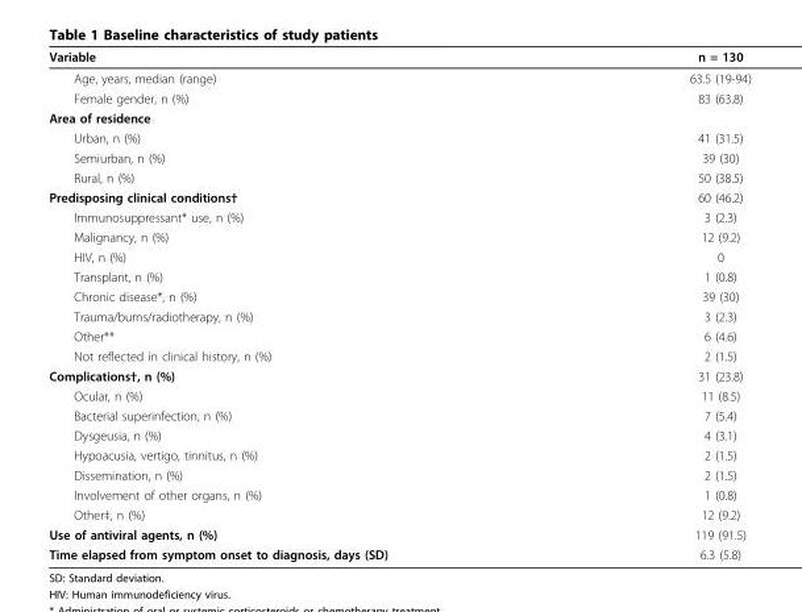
<table><thead><tr><td>Variable</td><td>n = 130</td></tr></thead><tbody><tr><td>Age, years, median (range)</td><td>63.5 (19-94)</td></tr><tr><td>Female gender, n (%)</td><td>83 (63.8)</td></tr><tr><td colspan="2">Area of residence</td></tr><tr><td>Urban, n (%)</td><td>41 (31.5)</td></tr><tr><td>Semiurban, n (%)</td><td>39 (30)</td></tr><tr><td>Rural, n (%)</td><td>50 (38.5)</td></tr><tr><td>Predisposing clinical conditions†</td><td>60 (46.2)</td></tr><tr><td>Immunosuppressant* use, n (%)</td><td>3 (2.3)</td></tr><tr><td>Malignancy, n (%)</td><td>12 (9.2)</td></tr><tr><td>HIV, n (%)</td><td>0</td></tr><tr><td>Transplant, n (%)</td><td>1 (0.8)</td></tr><tr><td>Chronic disease*, n (%)</td><td>39 (30)</td></tr><tr><td>Trauma/burns/radiotherapy, n (%)</td><td>3 (2.3)</td></tr><tr><td>Other**</td><td>6 (4.6)</td></tr><tr><td>Not reflected in clinical history, n (%)</td><td>2 (1.5)</td></tr><tr><td>Complications†, n (%)</td><td>31 (23.8)</td></tr><tr><td>Ocular, n (%)</td><td>11 (8.5)</td></tr><tr><td>Bacterial superinfection, n (%)</td><td>7 (5.4)</td></tr><tr><td>Dysgeusia, n (%)</td><td>4 (3.1)</td></tr><tr><td>Hypoacusia, vertigo, tinnitus, n (%)</td><td>2 (1.5)</td></tr><tr><td>Dissemination, n (%)</td><td>2 (1.5)</td></tr><tr><td>Involvement of other organs, n (%)</td><td>1 (0.8)</td></tr><tr><td>Other‡, n (%)</td><td>12 (9.2)</td></tr><tr><td>Use of antiviral agents, n (%)</td><td>119 (91.5)</td></tr><tr><td>Time elapsed from symptom onset to diagnosis, days (SD)</td><td>6.3 (5.8)</td></tr></tbody></table>